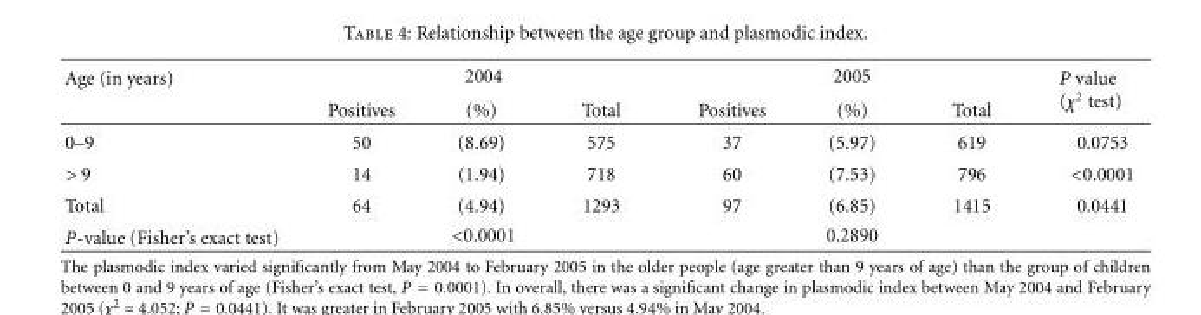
<table><thead><tr><td rowspan="2">Age (in years)</td><td colspan="3">2004</td><td colspan="3">2005</td><td rowspan="2">P value (χ<sup>2</sup> test)</td></tr><tr><td>Positives</td><td>(%)</td><td>Total</td><td>Positives</td><td>(%)</td><td>Total</td></tr></thead><tbody><tr><td>0–9</td><td>50</td><td>(8.69)</td><td>575</td><td>37</td><td>(5.97)</td><td>619</td><td>0.0753</td></tr><tr><td>&gt; 9</td><td>14</td><td>(1.94)</td><td>718</td><td>60</td><td>(7.53)</td><td>796</td><td>&lt;0.0001</td></tr><tr><td>Total</td><td>64</td><td>(4.94)</td><td>1293</td><td>97</td><td>(6.85)</td><td>1415</td><td>0.0441</td></tr><tr><td>P-value (Fisher’s exact test)</td><td colspan="3">&lt;0.0001</td><td colspan="3">0.2890</td><td></td></tr></tbody></table>